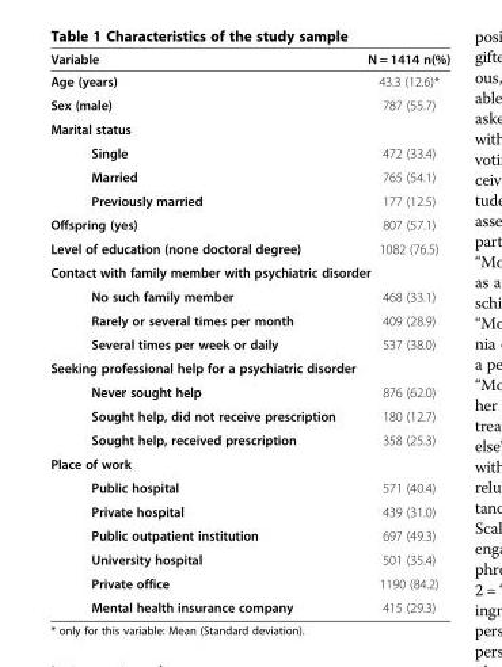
<table><thead><tr><td>Variable</td><td>N = 1414 n(%)</td></tr></thead><tbody><tr><td>Age (years)</td><td>43.3 (12.6)*</td></tr><tr><td>Sex (male)</td><td>787 (55.7)</td></tr><tr><td colspan="2">Marital status</td></tr><tr><td>Single</td><td>472 (33.4)</td></tr><tr><td>Married</td><td>765 (54.1)</td></tr><tr><td>Previously married</td><td>177 (12.5)</td></tr><tr><td>Offspring (yes)</td><td>807 (57.1)</td></tr><tr><td>Level of education (none doctoral degree)</td><td>1082 (76.5)</td></tr><tr><td colspan="2">Contact with family member with psychiatric disorder</td></tr><tr><td>No such family member</td><td>468 (33.1)</td></tr><tr><td>Rarely or several times per month</td><td>409 (28.9)</td></tr><tr><td>Several times per week or daily</td><td>537 (38.0)</td></tr><tr><td colspan="2">Seeking professional help for a psychiatric disorder</td></tr><tr><td>Never sought help</td><td>876 (62.0)</td></tr><tr><td>Sought help, did not receive prescription</td><td>180 (12.7)</td></tr><tr><td>Sought help, received prescription</td><td>358 (25.3)</td></tr><tr><td colspan="2">Place of work</td></tr><tr><td>Public hospital</td><td>571 (40.4)</td></tr><tr><td>Private hospital</td><td>439 (31.0)</td></tr><tr><td>Public outpatient institution</td><td>697 (49.3)</td></tr><tr><td>University hospital</td><td>501 (35.4)</td></tr><tr><td>Private office</td><td>1190 (84.2)</td></tr><tr><td>Mental health insurance company</td><td>415 (29.3)</td></tr></tbody></table>